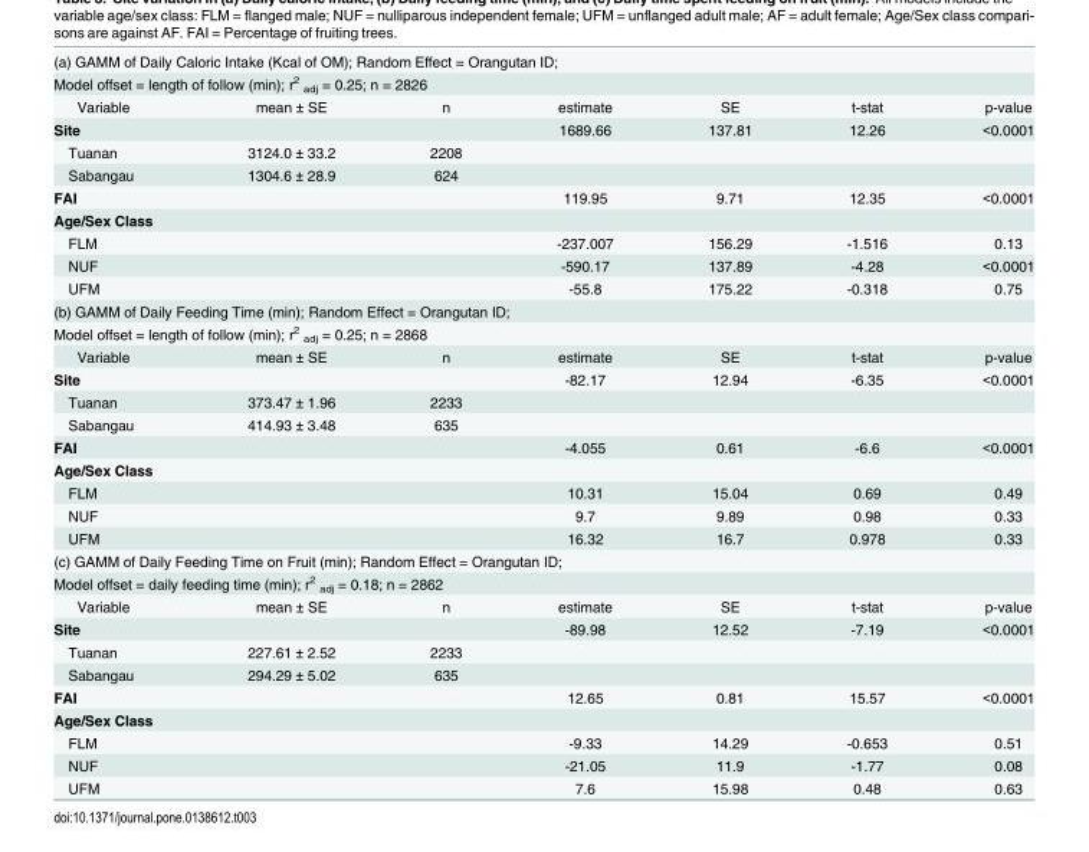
<table><tbody><tr><td colspan="7">(a) GAMM of Daily Caloric Intake (Kcal of OM); Random Effect = Orangutan ID;</td></tr><tr><td colspan="7">Model offset = length of follow (min); r<sup>2</sup> <sub>adj</sub> = 0.25; n = 2826</td></tr><tr><td>Variable</td><td>mean ± SE</td><td>n</td><td>estimate</td><td>SE</td><td>t-stat</td><td>p-value</td></tr><tr><td>Site</td><td></td><td></td><td>1689.66</td><td>137.81</td><td>12.26</td><td>&lt;0.0001</td></tr><tr><td>Tuanan</td><td>3124.0 ± 33.2</td><td>2208</td><td></td><td></td><td></td><td></td></tr><tr><td>Sabangau</td><td>1304.6 ± 28.9</td><td>624</td><td></td><td></td><td></td><td></td></tr><tr><td>FAI</td><td></td><td></td><td>119.95</td><td>9.71</td><td>12.35</td><td>&lt;0.0001</td></tr><tr><td colspan="7">Age/Sex Class</td></tr><tr><td>FLM</td><td></td><td></td><td>-237.007</td><td>156.29</td><td>-1.516</td><td>0.13</td></tr><tr><td>NUF</td><td></td><td></td><td>-590.17</td><td>137.89</td><td>-4.28</td><td>&lt;0.0001</td></tr><tr><td>UFM</td><td></td><td></td><td>-55.8</td><td>175.22</td><td>-0.318</td><td>0.75</td></tr><tr><td colspan="7">(b) GAMM of Daily Feeding Time (min); Random Effect = Orangutan ID;</td></tr><tr><td colspan="7">Model offset = length of follow (min); r<sup>2</sup> <sub>adj</sub> = 0.25; n = 2868</td></tr><tr><td>Variable</td><td>mean ± SE</td><td>n</td><td>estimate</td><td>SE</td><td>t-stat</td><td>p-value</td></tr><tr><td>Site</td><td></td><td></td><td>-82.17</td><td>12.94</td><td>-6.35</td><td>&lt;0.0001</td></tr><tr><td>Tuanan</td><td>373.47 ± 1.96</td><td>2233</td><td></td><td></td><td></td><td></td></tr><tr><td>Sabangau</td><td>414.93 ± 3.48</td><td>635</td><td></td><td></td><td></td><td></td></tr><tr><td>FAI</td><td></td><td></td><td>-4.055</td><td>0.61</td><td>-6.6</td><td>&lt;0.0001</td></tr><tr><td colspan="7">Age/Sex Class</td></tr><tr><td>FLM</td><td></td><td></td><td>10.31</td><td>15.04</td><td>0.69</td><td>0.49</td></tr><tr><td>NUF</td><td></td><td></td><td>9.7</td><td>9.89</td><td>0.98</td><td>0.33</td></tr><tr><td>UFM</td><td></td><td></td><td>16.32</td><td>16.7</td><td>0.978</td><td>0.33</td></tr><tr><td colspan="7">(c) GAMM of Daily Feeding Time on Fruit (min); Random Effect = Orangutan ID;</td></tr><tr><td colspan="7">Model offset = daily feeding time (min); r<sup>2</sup> <sub>adj</sub> = 0.18; n = 2862</td></tr><tr><td>Variable</td><td>mean ± SE</td><td>n</td><td>estimate</td><td>SE</td><td>t-stat</td><td>p-value</td></tr><tr><td>Site</td><td></td><td></td><td>-89.98</td><td>12.52</td><td>-7.19</td><td>&lt;0.0001</td></tr><tr><td>Tuanan</td><td>227.61 ± 2.52</td><td>2233</td><td></td><td></td><td></td><td></td></tr><tr><td>Sabangau</td><td>294.29 ± 5.02</td><td>635</td><td></td><td></td><td></td><td></td></tr><tr><td>FAI</td><td></td><td></td><td>12.65</td><td>0.81</td><td>15.57</td><td>&lt;0.0001</td></tr><tr><td colspan="7">Age/Sex Class</td></tr><tr><td>FLM</td><td></td><td></td><td>-9.33</td><td>14.29</td><td>-0.653</td><td>0.51</td></tr><tr><td>NUF</td><td></td><td></td><td>-21.05</td><td>11.9</td><td>-1.77</td><td>0.08</td></tr><tr><td>UFM</td><td></td><td></td><td>7.6</td><td>15.98</td><td>0.48</td><td>0.63</td></tr></tbody></table>